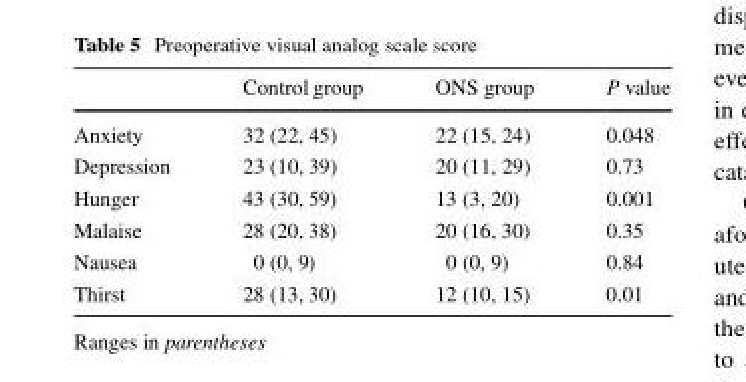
<table><thead><tr><td></td><td>Control group</td><td>ONS group</td><td>P value</td></tr></thead><tbody><tr><td>Anxiety</td><td>32 (22, 45)</td><td>22 (15, 24)</td><td>0.048</td></tr><tr><td>Depression</td><td>23 (10, 39)</td><td>20 (11, 29)</td><td>0.73</td></tr><tr><td>Hunger</td><td>43 (30, 59)</td><td>13 (3, 20)</td><td>0.001</td></tr><tr><td>Malaise</td><td>28 (20, 38)</td><td>20 (16, 30)</td><td>0.35</td></tr><tr><td>Nausea</td><td>0 (0, 9)</td><td>0 (0, 9)</td><td>0.84</td></tr><tr><td>Thirst</td><td>28 (13, 30)</td><td>12 (10, 15)</td><td>0.01</td></tr></tbody></table>